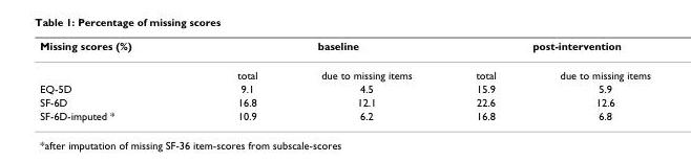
<table><thead><tr><td rowspan="2">Missing scores (%)</td><td colspan="2">baseline</td><td colspan="2">post-intervention</td></tr><tr><td>total</td><td>due to missing items</td><td>total</td><td>due to missing items</td></tr></thead><tbody><tr><td>EQ-5D</td><td>9.1</td><td>4.5</td><td>15.9</td><td>5.9</td></tr><tr><td>SF-6D</td><td>16.8</td><td>12.1</td><td>22.6</td><td>12.6</td></tr><tr><td>SF-6D-imputed *</td><td>10.9</td><td>6.2</td><td>16.8</td><td>6.8</td></tr></tbody></table>